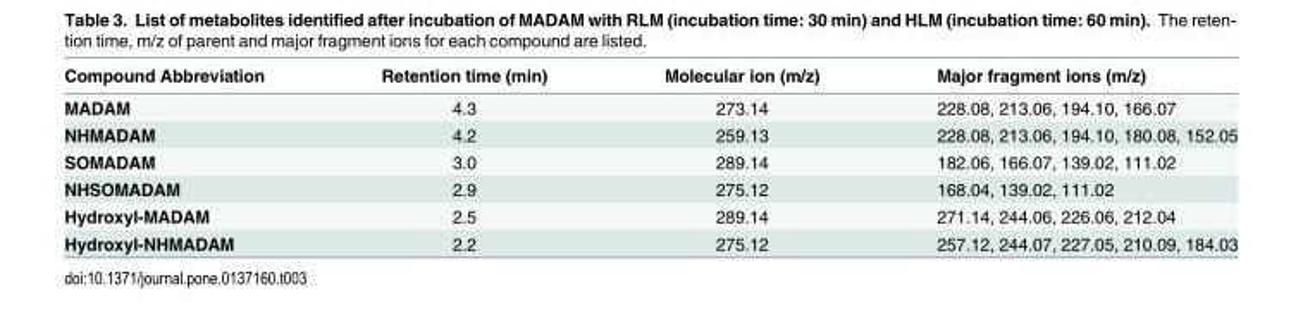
<table><thead><tr><td>Compound Abbreviation</td><td>Retention time (min)</td><td>Molecular ion (m/z)</td><td>Major fragment ions (m/z)</td></tr></thead><tbody><tr><td>MADAM</td><td>4.3</td><td>273.14</td><td>228.08, 213.06, 194.10, 166.07</td></tr><tr><td>NHMADAM</td><td>4.2</td><td>259.13</td><td>228.08, 213.06, 194.10, 180.08, 152.05</td></tr><tr><td>SOMADAM</td><td>3.0</td><td>289.14</td><td>182.06, 166.07, 139.02, 111.02</td></tr><tr><td>NHSOMADAM</td><td>2.9</td><td>275.12</td><td>168.04, 139.02, 111.02</td></tr><tr><td>Hydroxyl-MADAM</td><td>2.5</td><td>289.14</td><td>271.14, 244.06, 226.06, 212.04</td></tr><tr><td>Hydroxyl-NHMADAM</td><td>2.2</td><td>275.12</td><td>257.12, 244.07, 227.05, 210.09, 184.03</td></tr></tbody></table>